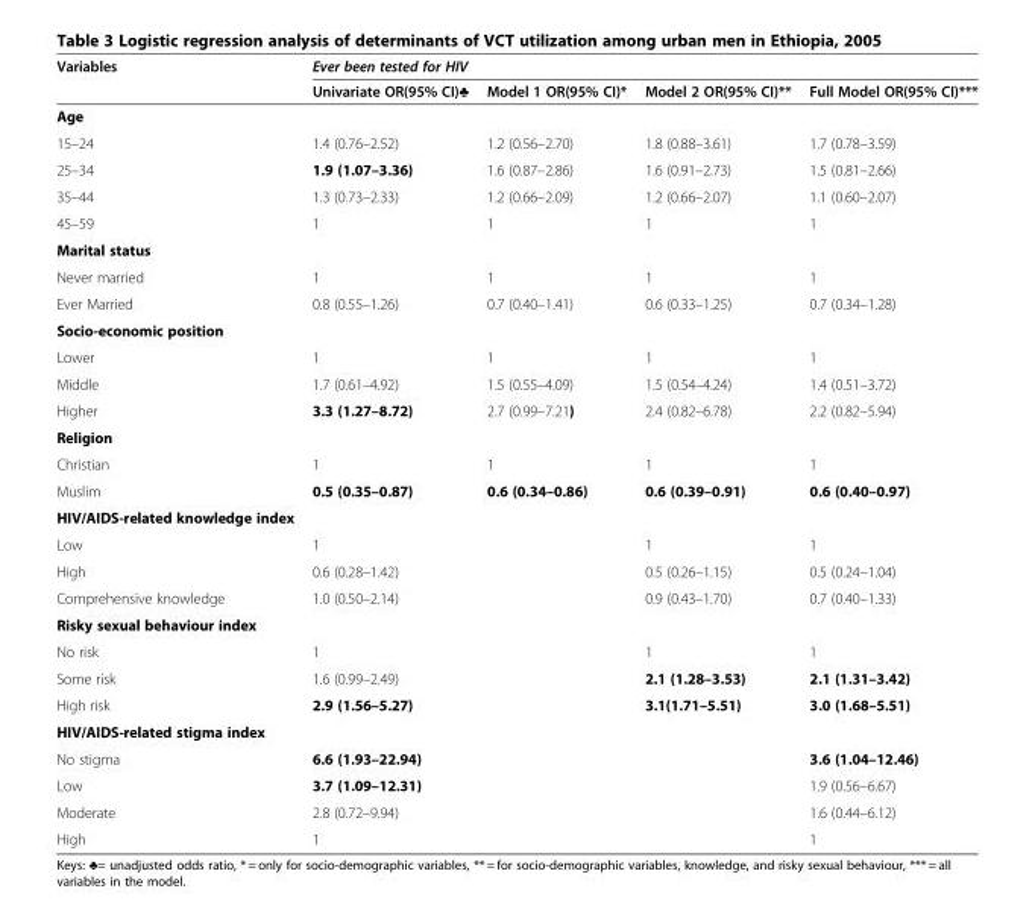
<table><thead><tr><td rowspan="2">Variables</td><td colspan="4">Ever been tested for HIV</td></tr><tr><td>Univariate OR(95% CI)♣</td><td>Model 1 OR(95% CI)*</td><td>Model 2 OR(95% CI)**</td><td>Full Model OR(95% CI)***</td></tr></thead><tbody><tr><td colspan="5">Age</td></tr><tr><td>15–24</td><td>1.4 (0.76–2.52)</td><td>1.2 (0.56–2.70)</td><td>1.8 (0.88–3.61)</td><td>1.7 (0.78–3.59)</td></tr><tr><td>25–34</td><td>1.9 (1.07–3.36)</td><td>1.6 (0.87–2.86)</td><td>1.6 (0.91–2.73)</td><td>1.5 (0.81–2.66)</td></tr><tr><td>35–44</td><td>1.3 (0.73–2.33)</td><td>1.2 (0.66–2.09)</td><td>1.2 (0.66–2.07)</td><td>1.1 (0.60–2.07)</td></tr><tr><td>45–59</td><td>1</td><td>1</td><td>1</td><td>1</td></tr><tr><td colspan="5">Marital status</td></tr><tr><td>Never married</td><td>1</td><td>1</td><td>1</td><td>1</td></tr><tr><td>Ever Married</td><td>0.8 (0.55–1.26)</td><td>0.7 (0.40–1.41)</td><td>0.6 (0.33–1.25)</td><td>0.7 (0.34–1.28)</td></tr><tr><td colspan="5">Socio-economic position</td></tr><tr><td>Lower</td><td>1</td><td>1</td><td>1</td><td>1</td></tr><tr><td>Middle</td><td>1.7 (0.61–4.92)</td><td>1.5 (0.55–4.09)</td><td>1.5 (0.54–4.24)</td><td>1.4 (0.51–3.72)</td></tr><tr><td>Higher</td><td>3.3 (1.27–8.72)</td><td>2.7 (0.99–7.21)</td><td>2.4 (0.82–6.78)</td><td>2.2 (0.82–5.94)</td></tr><tr><td colspan="5">Religion</td></tr><tr><td>Christian</td><td>1</td><td>1</td><td>1</td><td>1</td></tr><tr><td>Muslim</td><td>0.5 (0.35–0.87)</td><td>0.6 (0.34–0.86)</td><td>0.6 (0.39–0.91)</td><td>0.6 (0.40–0.97)</td></tr><tr><td colspan="5">HIV/AIDS-related knowledge index</td></tr><tr><td>Low</td><td>1</td><td></td><td>1</td><td>1</td></tr><tr><td>High</td><td>0.6 (0.28–1.42)</td><td></td><td>0.5 (0.26–1.15)</td><td>0.5 (0.24–1.04)</td></tr><tr><td>Comprehensive knowledge</td><td>1.0 (0.50–2.14)</td><td></td><td>0.9 (0.43–1.70)</td><td>0.7 (0.40–1.33)</td></tr><tr><td colspan="5">Risky sexual behaviour index</td></tr><tr><td>No risk</td><td>1</td><td></td><td>1</td><td>1</td></tr><tr><td>Some risk</td><td>1.6 (0.99–2.49)</td><td></td><td>2.1 (1.28–3.53)</td><td>2.1 (1.31–3.42)</td></tr><tr><td>High risk</td><td>2.9 (1.56–5.27)</td><td></td><td>3.1(1.71–5.51)</td><td>3.0 (1.68–5.51)</td></tr><tr><td colspan="5">HIV/AIDS-related stigma index</td></tr><tr><td>No stigma</td><td>6.6 (1.93–22.94)</td><td></td><td></td><td>3.6 (1.04–12.46)</td></tr><tr><td>Low</td><td>3.7 (1.09–12.31)</td><td></td><td></td><td>1.9 (0.56–6.67)</td></tr><tr><td>Moderate</td><td>2.8 (0.72–9.94)</td><td></td><td></td><td>1.6 (0.44–6.12)</td></tr><tr><td>High</td><td>1</td><td></td><td></td><td>1</td></tr></tbody></table>